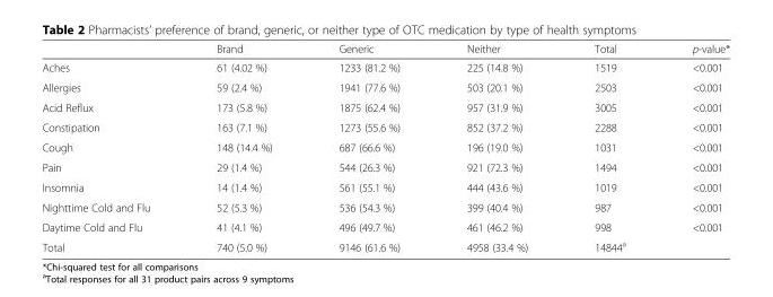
<table><thead><tr><td></td><td>Brand</td><td>Generic</td><td>Neither</td><td>Total</td><td>p-value*</td></tr></thead><tbody><tr><td>Aches</td><td>61 (4.02 %)</td><td>1233 (81.2 %)</td><td>225 (14.8 %)</td><td>1519</td><td>&lt;0.001</td></tr><tr><td>Allergies</td><td>59 (2.4 %)</td><td>1941 (77.6 %)</td><td>503 (20.1 %)</td><td>2503</td><td>&lt;0.001</td></tr><tr><td>Acid Reflux</td><td>173 (5.8 %)</td><td>1875 (62.4 %)</td><td>957 (31.9 %)</td><td>3005</td><td>&lt;0.001</td></tr><tr><td>Constipation</td><td>163 (7.1 %)</td><td>1273 (55.6 %)</td><td>852 (37.2 %)</td><td>2288</td><td>&lt;0.001</td></tr><tr><td>Cough</td><td>148 (14.4 %)</td><td>687 (66.6 %)</td><td>196 (19.0 %)</td><td>1031</td><td>&lt;0.001</td></tr><tr><td>Pain</td><td>29 (1.4 %)</td><td>544 (26.3 %)</td><td>921 (72.3 %)</td><td>1494</td><td>&lt;0.001</td></tr><tr><td>Insomnia</td><td>14 (1.4 %)</td><td>561 (55.1 %)</td><td>444 (43.6 %)</td><td>1019</td><td>&lt;0.001</td></tr><tr><td>Nighttime Cold and Flu</td><td>52 (5.3 %)</td><td>536 (54.3 %)</td><td>399 (40.4 %)</td><td>987</td><td>&lt;0.001</td></tr><tr><td>Daytime Cold and Flu</td><td>41 (4.1 %)</td><td>496 (49.7 %)</td><td>461 (46.2 %)</td><td>998</td><td>&lt;0.001</td></tr><tr><td>Total</td><td>740 (5.0 %)</td><td>9146 (61.6 %)</td><td>4958 (33.4 %)</td><td>14844<sup>a</sup></td><td></td></tr></tbody></table>